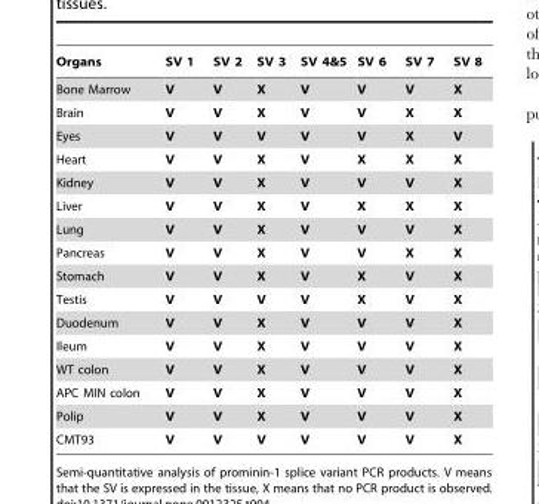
<table><thead><tr><td>Organs</td><td>SV 1</td><td>SV 2</td><td>SV 3</td><td>SV 4&amp;5</td><td>SV 6</td><td>SV 7</td><td>SV 8</td></tr></thead><tbody><tr><td>Bone Marrow</td><td>V</td><td>V</td><td>X</td><td>V</td><td>V</td><td>V</td><td>X</td></tr><tr><td>Brain</td><td>V</td><td>V</td><td>X</td><td>V</td><td>V</td><td>X</td><td>X</td></tr><tr><td>Eyes</td><td>V</td><td>V</td><td>V</td><td>V</td><td>V</td><td>X</td><td>V</td></tr><tr><td>Heart</td><td>V</td><td>V</td><td>X</td><td>V</td><td>X</td><td>X</td><td>X</td></tr><tr><td>Kidney</td><td>V</td><td>V</td><td>X</td><td>V</td><td>V</td><td>V</td><td>X</td></tr><tr><td>Liver</td><td>V</td><td>V</td><td>X</td><td>V</td><td>X</td><td>X</td><td>X</td></tr><tr><td>Lung</td><td>V</td><td>V</td><td>X</td><td>V</td><td>V</td><td>V</td><td>X</td></tr><tr><td>Pancreas</td><td>V</td><td>V</td><td>X</td><td>V</td><td>V</td><td>X</td><td>X</td></tr><tr><td>Stomach</td><td>V</td><td>V</td><td>X</td><td>V</td><td>X</td><td>V</td><td>X</td></tr><tr><td>Testis</td><td>V</td><td>V</td><td>V</td><td>V</td><td>X</td><td>V</td><td>X</td></tr><tr><td>Duodenum</td><td>V</td><td>V</td><td>X</td><td>V</td><td>V</td><td>V</td><td>X</td></tr><tr><td>Ileum</td><td>V</td><td>V</td><td>X</td><td>V</td><td>V</td><td>V</td><td>X</td></tr><tr><td>WT colon</td><td>V</td><td>V</td><td>X</td><td>V</td><td>V</td><td>V</td><td>X</td></tr><tr><td>APC MIN colon</td><td>V</td><td>V</td><td>X</td><td>V</td><td>V</td><td>V</td><td>X</td></tr><tr><td>Polip</td><td>V</td><td>V</td><td>X</td><td>V</td><td>V</td><td>V</td><td>X</td></tr><tr><td>CMT93</td><td>V</td><td>V</td><td>V</td><td>V</td><td>V</td><td>V</td><td>X</td></tr></tbody></table>